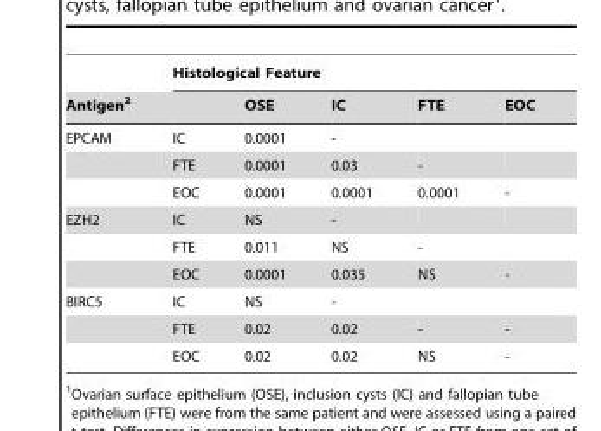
<table><thead><tr><td rowspan="2">Antigen<sup>2</sup></td><td colspan="5">Histological Feature</td></tr><tr><td></td><td>OSE</td><td>IC</td><td>FTE</td><td>EOC</td></tr></thead><tbody><tr><td rowspan="3">EPCAM</td><td>IC</td><td>0.0001</td><td>-</td><td></td><td></td></tr><tr><td>FTE</td><td>0.0001</td><td>0.03</td><td>-</td><td></td></tr><tr><td>EOC</td><td>0.0001</td><td>0.0001</td><td>0.0001</td><td>-</td></tr><tr><td rowspan="3">EZH2</td><td>IC</td><td>NS</td><td>-</td><td></td><td></td></tr><tr><td>FTE</td><td>0.011</td><td>NS</td><td>-</td><td></td></tr><tr><td>EOC</td><td>0.0001</td><td>0.035</td><td>NS</td><td>-</td></tr><tr><td rowspan="3">BIRC5</td><td>IC</td><td>NS</td><td>-</td><td></td><td></td></tr><tr><td>FTE</td><td>0.02</td><td>0.02</td><td>-</td><td>-</td></tr><tr><td>EOC</td><td>0.02</td><td>0.02</td><td>NS</td><td>-</td></tr></tbody></table>